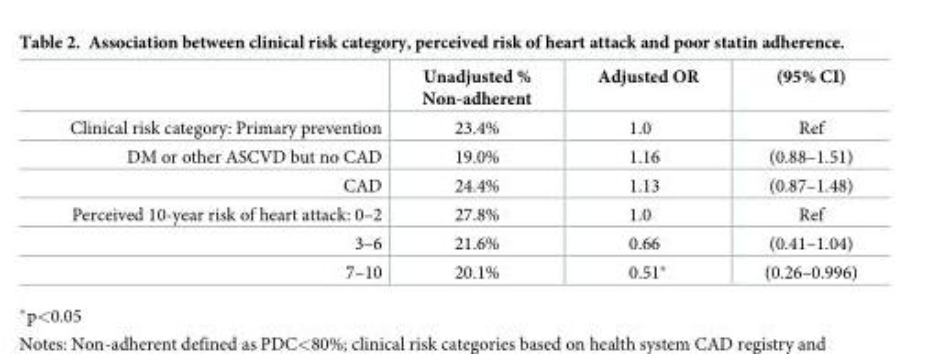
<table><thead><tr><td></td><td>Unadjusted % Non-adherent</td><td>Adjusted OR</td><td>(95% CI)</td></tr></thead><tbody><tr><td>Clinical risk category: Primary prevention</td><td>23.4%</td><td>1.0</td><td>Ref</td></tr><tr><td>DM or other ASCVD but no CAD</td><td>19.0%</td><td>1.16</td><td>(0.88–1.51)</td></tr><tr><td>CAD</td><td>24.4%</td><td>1.13</td><td>(0.87–1.48)</td></tr><tr><td>Perceived 10-year risk of heart attack: 0–2</td><td>27.8%</td><td>1.0</td><td>Ref</td></tr><tr><td>3–6</td><td>21.6%</td><td>0.66</td><td>(0.41–1.04)</td></tr><tr><td>7–10</td><td>20.1%</td><td>0.51*</td><td>(0.26–0.996)</td></tr></tbody></table>